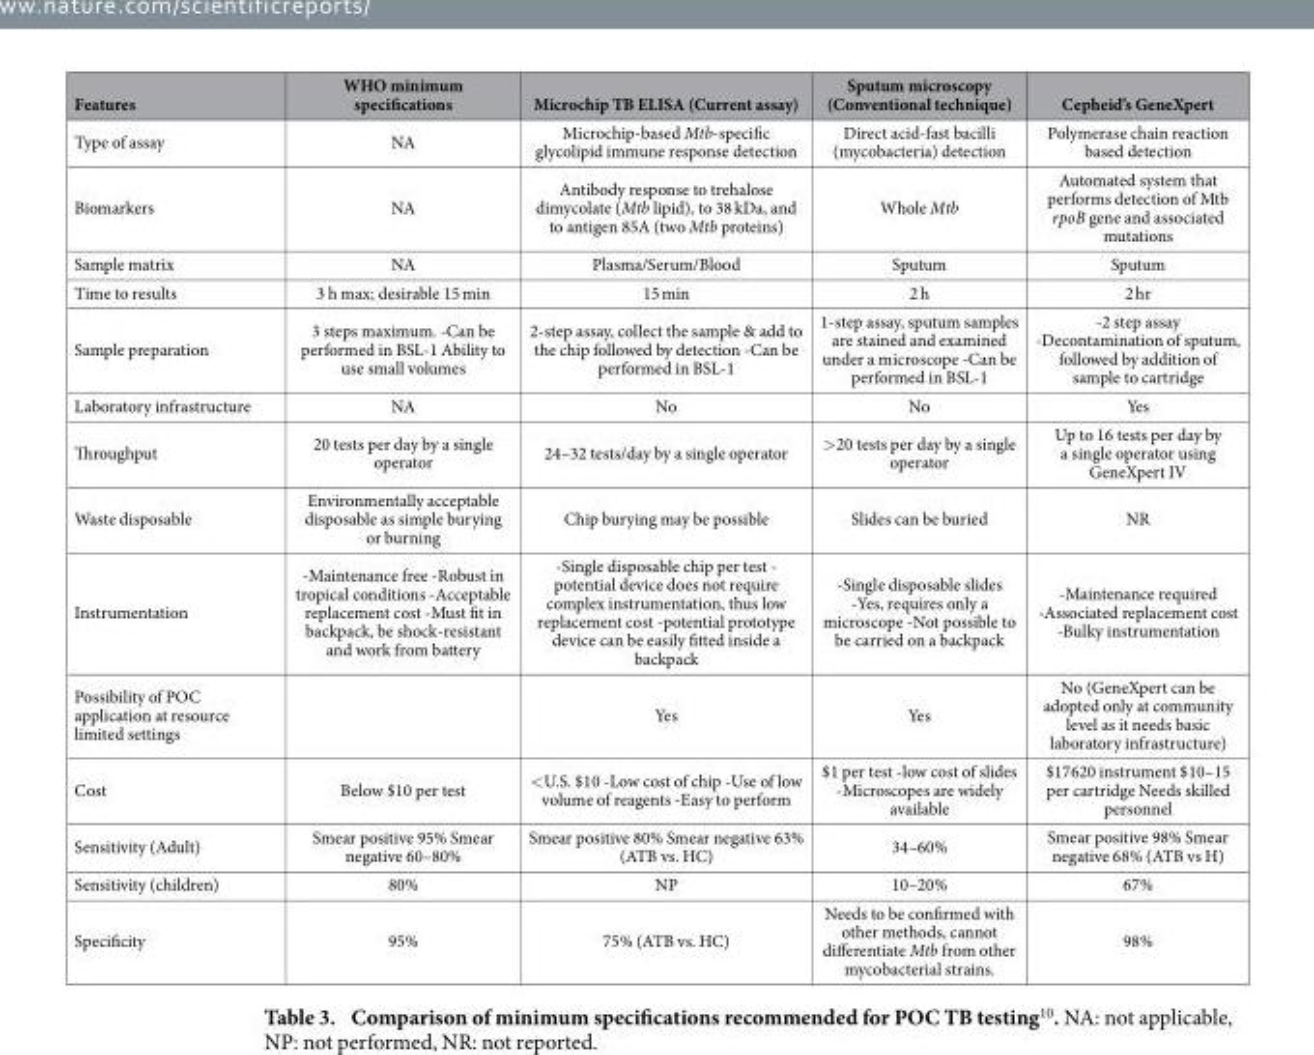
<table><thead><tr><td>Features</td><td>WHO minimum specifications</td><td>Microchip TB ELISA (Current assay)</td><td>Sputum microscopy (Conventional technique)</td><td>Cepheid’s GeneXpert</td></tr></thead><tbody><tr><td>Type of assay</td><td>NA</td><td>Microchip-based Mtb-specific glycolipid immune response detection</td><td>Direct acid-fast bacilli (mycobacteria) detection</td><td>Polymerase chain reaction based detection</td></tr><tr><td>Biomarkers</td><td>NA</td><td>Antibody response to trehalose dimycolate (Mtb lipid), to 38 kDa, and to antigen 85A (two Mtb proteins)</td><td>Whole Mtb</td><td>Automated system that performs detection of Mtb rpoB gene and associated mutations</td></tr><tr><td>Sample matrix</td><td>NA</td><td>Plasma/Serum/Blood</td><td>Sputum</td><td>Sputum</td></tr><tr><td>Time to results</td><td>3 h max; desirable 15 min</td><td>15 min</td><td>2 h</td><td>2 hr</td></tr><tr><td>Sample preparation</td><td>3 steps maximum. -Can be performed in BSL-1 Ability to use small volumes</td><td>2-step assay, collect the sample &amp; add to the chip followed by detection -Can be performed in BSL-1</td><td>1-step assay, sputum samples are stained and examined under a microscope -Can be performed in BSL-1</td><td>-2 step assay -Decontamination of sputum, followed by addition of sample to cartridge</td></tr><tr><td>Laboratory infrastructure</td><td>NA</td><td>No</td><td>No</td><td>Yes</td></tr><tr><td>Throughput</td><td>20 tests per day by a single operator</td><td>24–32 tests/day by a single operator</td><td>&gt; 20 tests per day by a single operator</td><td>Up to 16 tests per day by a single operator using GeneXpert IV</td></tr><tr><td>Waste disposable</td><td>Environmentally acceptable disposable as simple burying or burning</td><td>Chip burying may be possible</td><td>Slides can be buried</td><td>NR</td></tr><tr><td>Instrumentation</td><td>-Maintenance free -Robust in tropical conditions -Acceptable replacement cost -Must fit in backpack, be shock-resistant and work from battery</td><td>-Single disposable chip per test - potential device does not require complex instrumentation, thus low replacement cost -potential prototype device can be easily fitted inside a backpack</td><td>-Single disposable slides -Yes, requires only a microscope -Not possible to be carried on a backpack</td><td>-Maintenance required -Associated replacement cost -Bulky instrumentation</td></tr><tr><td>Possibility of POC application at resource limited settings</td><td></td><td>Yes</td><td>Yes</td><td>No (GeneXpert can be adopted only at community level as it needs basic laboratory infrastructure)</td></tr><tr><td>Cost</td><td>Below $10 per test</td><td>&lt; U.S. $10 -Low cost of chip -Use of low volume of reagents -Easy to perform</td><td>$1 per test -low cost of slides -Microscopes are widely available</td><td>$17620 instrument $10–15 per cartridge Needs skilled personnel</td></tr><tr><td>Sensitivity (Adult)</td><td>Smear positive 95% Smear negative 60–80%</td><td>Smear positive 80% Smear negative 63% (ATB vs. HC)</td><td>34–60%</td><td>Smear positive 98% Smear negative 68% (ATB vs H)</td></tr><tr><td>Sensitivity (children)</td><td>80%</td><td>NP</td><td>10–20%</td><td>67%</td></tr><tr><td>Specificity</td><td>95%</td><td>75% (ATB vs. HC)</td><td>Needs to be confirmed with other methods, cannot differentiate Mtb from other mycobacterial strains.</td><td>98%</td></tr></tbody></table>